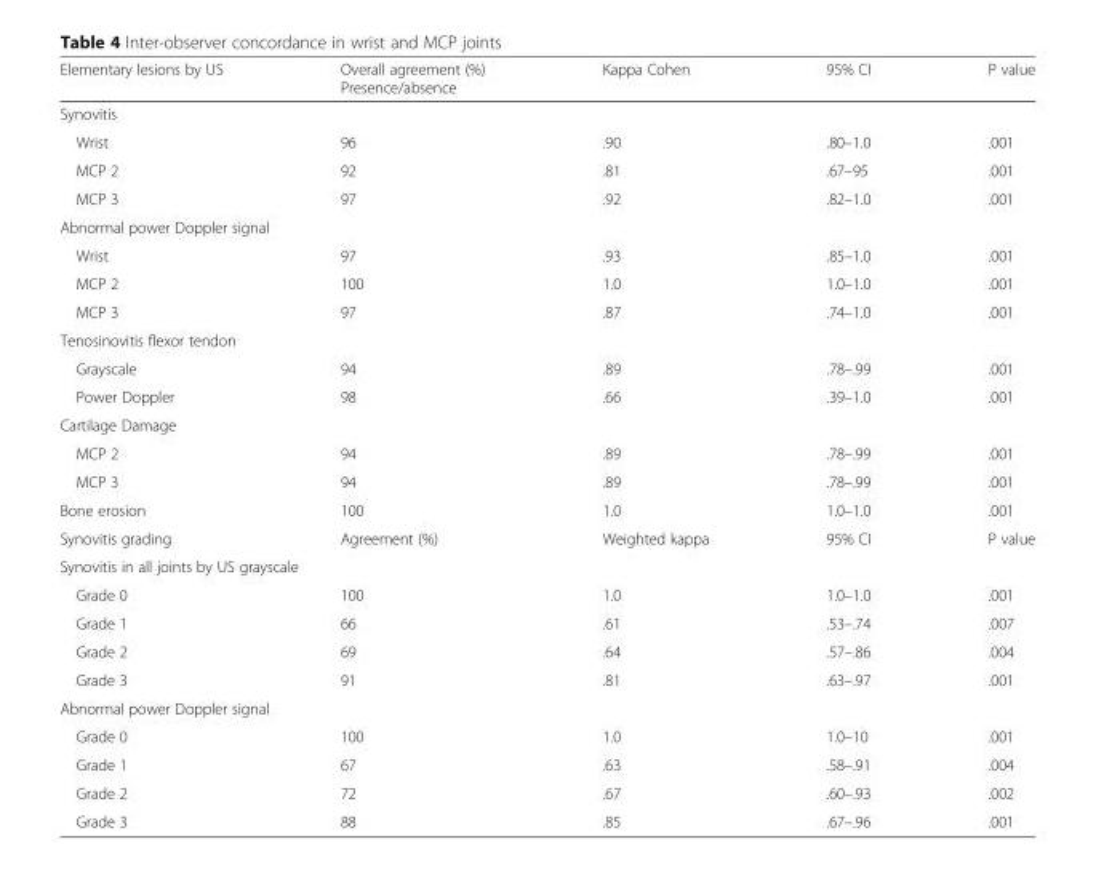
<table><thead><tr><td>Elementary lesions by US</td><td>Overall agreement (%) Presence/absence</td><td>Kappa Cohen</td><td>95% CI</td><td>P value</td></tr></thead><tbody><tr><td colspan="5">Synovitis</td></tr><tr><td>Wrist</td><td>96</td><td>.90</td><td>.80–1.0</td><td>.001</td></tr><tr><td>MCP 2</td><td>92</td><td>.81</td><td>.67–95</td><td>.001</td></tr><tr><td>MCP 3</td><td>97</td><td>.92</td><td>.82–1.0</td><td>.001</td></tr><tr><td colspan="5">Abnormal power Doppler signal</td></tr><tr><td>Wrist</td><td>97</td><td>.93</td><td>.85–1.0</td><td>.001</td></tr><tr><td>MCP 2</td><td>100</td><td>1.0</td><td>1.0–1.0</td><td>.001</td></tr><tr><td>MCP 3</td><td>97</td><td>.87</td><td>.74–1.0</td><td>.001</td></tr><tr><td colspan="5">Tenosinovitis flexor tendon</td></tr><tr><td>Grayscale</td><td>94</td><td>.89</td><td>.78–.99</td><td>.001</td></tr><tr><td>Power Doppler</td><td>98</td><td>.66</td><td>.39–1.0</td><td>.001</td></tr><tr><td colspan="5">Cartilage Damage</td></tr><tr><td>MCP 2</td><td>94</td><td>.89</td><td>.78–.99</td><td>.001</td></tr><tr><td>MCP 3</td><td>94</td><td>.89</td><td>.78–.99</td><td>.001</td></tr><tr><td>Bone erosion</td><td>100</td><td>1.0</td><td>1.0–1.0</td><td>.001</td></tr><tr><td>Synovitis grading</td><td>Agreement (%)</td><td>Weighted kappa</td><td>95% CI</td><td>P value</td></tr><tr><td colspan="5">Synovitis in all joints by US grayscale</td></tr><tr><td>Grade 0</td><td>100</td><td>1.0</td><td>1.0–1.0</td><td>.001</td></tr><tr><td>Grade 1</td><td>66</td><td>.61</td><td>.53–.74</td><td>.007</td></tr><tr><td>Grade 2</td><td>69</td><td>.64</td><td>.57–.86</td><td>.004</td></tr><tr><td>Grade 3</td><td>91</td><td>.81</td><td>.63–.97</td><td>.001</td></tr><tr><td colspan="5">Abnormal power Doppler signal</td></tr><tr><td>Grade 0</td><td>100</td><td>1.0</td><td>1.0–10</td><td>.001</td></tr><tr><td>Grade 1</td><td>67</td><td>.63</td><td>.58–.91</td><td>.004</td></tr><tr><td>Grade 2</td><td>72</td><td>.67</td><td>.60–.93</td><td>.002</td></tr><tr><td>Grade 3</td><td>88</td><td>.85</td><td>.67–.96</td><td>.001</td></tr></tbody></table>